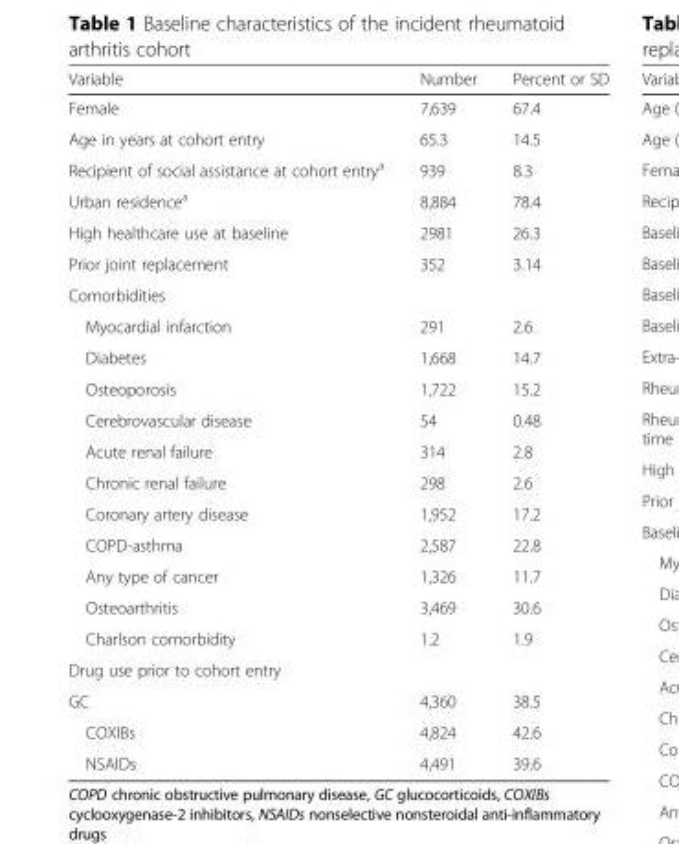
<table><thead><tr><td>Variable</td><td>Number</td><td>Percent or SD</td></tr></thead><tbody><tr><td>Female</td><td>7,639</td><td>67.4</td></tr><tr><td>Age in years at cohort entry</td><td>65.3</td><td>14.5</td></tr><tr><td>Recipient of social assistance at cohort entry<sup>a</sup></td><td>939</td><td>8.3</td></tr><tr><td>Urban residence<sup>a</sup></td><td>8,884</td><td>78.4</td></tr><tr><td>High healthcare use at baseline</td><td>2981</td><td>26.3</td></tr><tr><td>Prior joint replacement</td><td>352</td><td>3.14</td></tr><tr><td colspan="3">Comorbidities</td></tr><tr><td>Myocardial infarction</td><td>291</td><td>2.6</td></tr><tr><td>Diabetes</td><td>1,668</td><td>14.7</td></tr><tr><td>Osteoporosis</td><td>1,722</td><td>15.2</td></tr><tr><td>Cerebrovascular disease</td><td>54</td><td>0.48</td></tr><tr><td>Acute renal failure</td><td>314</td><td>2.8</td></tr><tr><td>Chronic renal failure</td><td>298</td><td>2.6</td></tr><tr><td>Coronary artery disease</td><td>1,952</td><td>17.2</td></tr><tr><td>COPD-asthma</td><td>2,587</td><td>22.8</td></tr><tr><td>Any type of cancer</td><td>1,326</td><td>11.7</td></tr><tr><td>Osteoarthritis</td><td>3,469</td><td>30.6</td></tr><tr><td>Charlson comorbidity</td><td>1.2</td><td>1.9</td></tr><tr><td colspan="3">Drug use prior to cohort entry</td></tr><tr><td>GC</td><td>4,360</td><td>38.5</td></tr><tr><td>COXIBs</td><td>4,824</td><td>42.6</td></tr><tr><td>NSAIDs</td><td>4,491</td><td>39.6</td></tr></tbody></table>